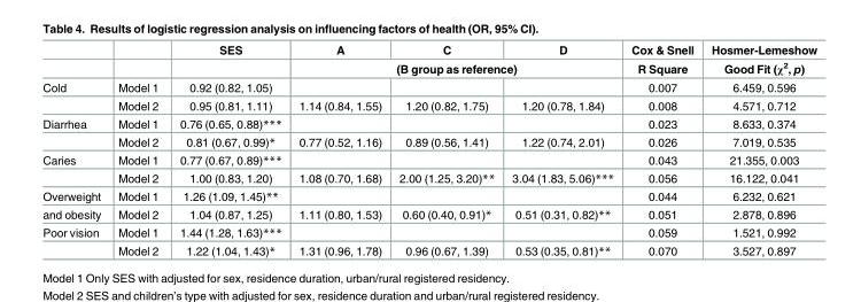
<table><thead><tr><td rowspan="2"></td><td rowspan="2"></td><td rowspan="2">SES</td><td>A</td><td>C</td><td>D</td><td rowspan="2">Cox &amp; Snell R Square</td><td rowspan="2">Hosmer-Lemeshow Good Fit (χ<sup>2</sup>, p)</td></tr><tr><td colspan="3">(B group as reference)</td></tr></thead><tbody><tr><td rowspan="2">Cold</td><td>Model 1</td><td>0.92 (0.82, 1.05)</td><td></td><td></td><td></td><td>0.007</td><td>6.459, 0.596</td></tr><tr><td>Model 2</td><td>0.95 (0.81, 1.11)</td><td>1.14 (0.84, 1.55)</td><td>1.20 (0.82, 1.75)</td><td>1.20 (0.78, 1.84)</td><td>0.008</td><td>4.571, 0.712</td></tr><tr><td rowspan="2">Diarrhea</td><td>Model 1</td><td>0.76 (0.65, 0.88)***</td><td></td><td></td><td></td><td>0.023</td><td>8.633, 0.374</td></tr><tr><td>Model 2</td><td>0.81 (0.67, 0.99)*</td><td>0.77 (0.52, 1.16)</td><td>0.89 (0.56, 1.41)</td><td>1.22 (0.74, 2.01)</td><td>0.026</td><td>7.019, 0.535</td></tr><tr><td rowspan="2">Caries</td><td>Model 1</td><td>0.77 (0.67, 0.89)***</td><td></td><td></td><td></td><td>0.043</td><td>21.355, 0.003</td></tr><tr><td>Model 2</td><td>1.00 (0.83, 1.20)</td><td>1.08 (0.70, 1.68)</td><td>2.00 (1.25, 3.20)**</td><td>3.04 (1.83, 5.06)***</td><td>0.056</td><td>16.122, 0.041</td></tr><tr><td>Overweight</td><td>Model 1</td><td>1.26 (1.09, 1.45)**</td><td></td><td></td><td></td><td>0.044</td><td>6.232, 0.621</td></tr><tr><td>and obesity</td><td>Model 2</td><td>1.04 (0.87, 1.25)</td><td>1.11 (0.80, 1.53)</td><td>0.60 (0.40, 0.91)*</td><td>0.51 (0.31, 0.82)**</td><td>0.051</td><td>2.878, 0.896</td></tr><tr><td rowspan="2">Poor vision</td><td>Model 1</td><td>1.44 (1.28, 1.63)***</td><td></td><td></td><td></td><td>0.059</td><td>1.521, 0.992</td></tr><tr><td>Model 2</td><td>1.22 (1.04, 1.43)*</td><td>1.31 (0.96, 1.78)</td><td>0.96 (0.67, 1.39)</td><td>0.53 (0.35, 0.81)**</td><td>0.070</td><td>3.527, 0.897</td></tr></tbody></table>